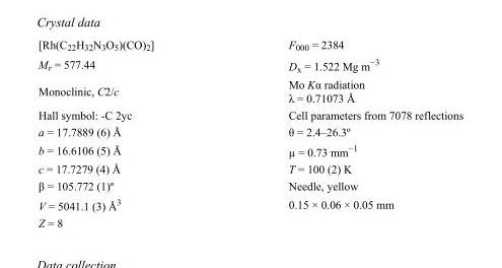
<table><tbody><tr><td>[Rh(C<sub>22</sub>H<sub>32</sub>N<sub>3</sub>O<sub>5</sub>)(CO)<sub>2</sub>]</td><td>F<sub>000</sub> = 2384</td></tr><tr><td>M<sub>r</sub> = 577.44</td><td>D<sub>x</sub> = 1.522 Mg m<sup>−3</sup></td></tr><tr><td>Monoclinic, C2/c</td><td>Mo Kα radiation λ = 0.71073 Å</td></tr><tr><td>Hall symbol: -C 2yc</td><td>Cell parameters from 7078 reflections</td></tr><tr><td>a = 17.7889 (6) Å</td><td>θ = 2.4–26.3º</td></tr><tr><td>b = 16.6106 (5) Å</td><td>µ = 0.73 mm<sup>−1</sup></td></tr><tr><td>c = 17.7279 (4) Å</td><td>T = 100 (2) K</td></tr><tr><td>β = 105.772 (1)º</td><td>Needle, yellow</td></tr><tr><td>V = 5041.1 (3) Å<sup>3</sup></td><td>0.15 × 0.06 × 0.05 mm</td></tr><tr><td>Z = 8</td><td></td></tr></tbody></table>